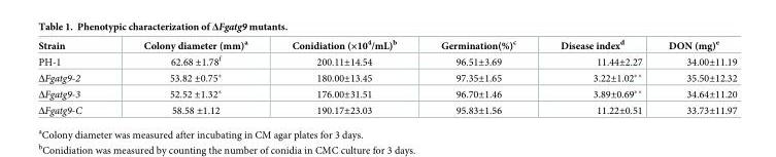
<table><thead><tr><td>Strain</td><td>Colony diameter (mm)<sup>a</sup></td><td>Conidiation (×10<sup>4</sup>/mL)<sup>b</sup></td><td>Germination(%)<sup>c</sup></td><td>Disease index<sup>d</sup></td><td>DON (mg)<sup>e</sup></td></tr></thead><tbody><tr><td>PH-1</td><td>62.68 ±1.78<sup>f</sup></td><td>200.11±14.54</td><td>96.51±3.69</td><td>11.44±2.27</td><td>34.00±11.19</td></tr><tr><td>ΔFgatg9-2</td><td>53.82 ±0.75*</td><td>180.00±13.45</td><td>97.35±1.65</td><td>3.22±1.02**</td><td>35.50±12.32</td></tr><tr><td>ΔFgatg9-3</td><td>52.52 ±1.32*</td><td>176.00±31.51</td><td>96.70±1.46</td><td>3.89±0.69**</td><td>34.64±11.20</td></tr><tr><td>ΔFgatg9-C</td><td>58.58 ±1.12</td><td>190.17±23.03</td><td>95.83±1.56</td><td>11.22±0.51</td><td>33.73±11.97</td></tr></tbody></table>